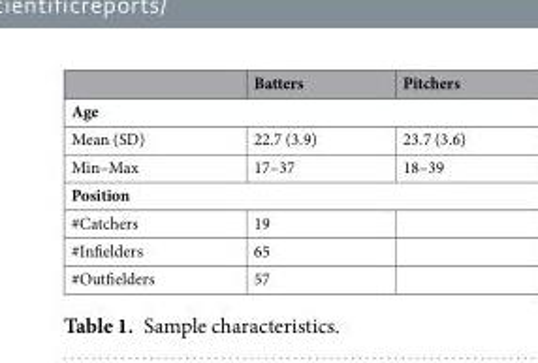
<table><thead><tr><td></td><td>Batters</td><td>Pitchers</td></tr></thead><tbody><tr><td colspan="3">Age</td></tr><tr><td>Mean (SD)</td><td>22.7 (3.9)</td><td>23.7 (3.6)</td></tr><tr><td>Min–Max</td><td>17–37</td><td>18–39</td></tr><tr><td colspan="3">Position</td></tr><tr><td>#Catchers</td><td>19</td><td></td></tr><tr><td>#Infielders</td><td>65</td><td></td></tr><tr><td>#Outfielders</td><td>57</td><td></td></tr></tbody></table>